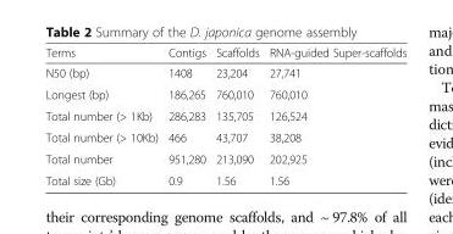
<table><thead><tr><td>Terms</td><td>Contigs</td><td>Scaffolds</td><td>RNA-guided Super-scaffolds</td></tr></thead><tbody><tr><td>N50 (bp)</td><td>1408</td><td>23,204</td><td>27,741</td></tr><tr><td>Longest (bp)</td><td>186,265</td><td>760,010</td><td>760,010</td></tr><tr><td>Total number (&gt; 1Kb)</td><td>286,283</td><td>135,705</td><td>126,524</td></tr><tr><td>Total number (&gt; 10Kb)</td><td>466</td><td>43,707</td><td>38,208</td></tr><tr><td>Total number</td><td>951,280</td><td>213,090</td><td>202,925</td></tr><tr><td>Total size (Gb)</td><td>0.9</td><td>1.56</td><td>1.56</td></tr></tbody></table>